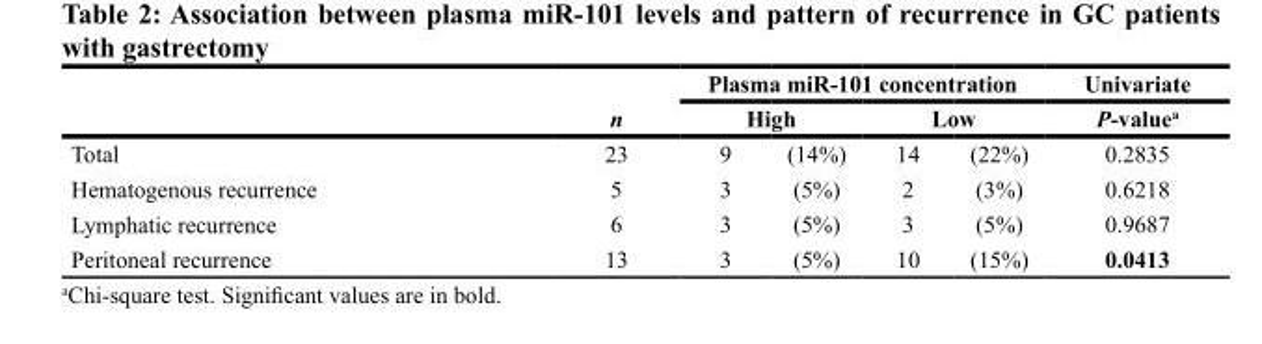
<table><thead><tr><td rowspan="3">Total</td><td rowspan="3">n 23</td><td colspan="4">Plasma miR-101 concentration</td><td rowspan="3">Univariate P-value<sup>a</sup> 0.2835</td></tr><tr><td colspan="2">High</td><td colspan="2">Low</td></tr><tr><td>9</td><td>(14%)</td><td>14</td><td>(22%)</td></tr></thead><tbody><tr><td>Hematogenous recurrence</td><td>5</td><td>3</td><td>(5%)</td><td>2</td><td>(3%)</td><td>0.6218</td></tr><tr><td>Lymphatic recurrence</td><td>6</td><td>3</td><td>(5%)</td><td>3</td><td>(5%)</td><td>0.9687</td></tr><tr><td>Peritoneal recurrence</td><td>13</td><td>3</td><td>(5%)</td><td>10</td><td>(15%)</td><td>0.0413</td></tr></tbody></table>